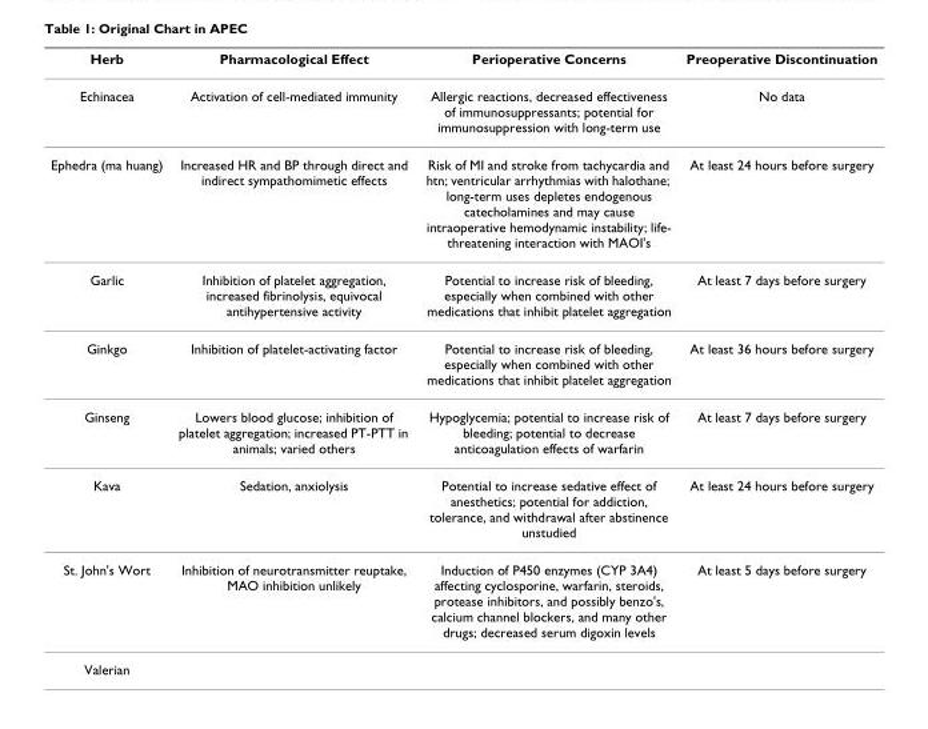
<table><thead><tr><td>Herb</td><td>Pharmacological Effect</td><td>Perioperative Concerns</td><td>Preoperative Discontinuation</td></tr></thead><tbody><tr><td>Echinacea</td><td>Activation of cell-mediated immunity</td><td>Allergic reactions, decreased effectiveness of immunosuppressants; potential for immunosuppression with long-term use</td><td>No data</td></tr><tr><td>Ephedra (ma huang)</td><td>Increased HR and BP through direct and indirect sympathomimetic effects</td><td>Risk of MI and stroke from tachycardia and htn; ventricular arrhythmias with halothane; long-term uses depletes endogenous catecholamines and may cause intraoperative hemodynamic instability; life- threatening interaction with MAOI&#x27;s</td><td>At least 24 hours before surgery</td></tr><tr><td>Garlic</td><td>Inhibition of platelet aggregation, increased fibrinolysis, equivocal antihypertensive activity</td><td>Potential to increase risk of bleeding, especially when combined with other medications that inhibit platelet aggregation</td><td>At least 7 days before surgery</td></tr><tr><td>Ginkgo</td><td>Inhibition of platelet-activating factor</td><td>Potential to increase risk of bleeding, especially when combined with other medications that inhibit platelet aggregation</td><td>At least 36 hours before surgery</td></tr><tr><td>Ginseng</td><td>Lowers blood glucose; inhibition of platelet aggregation; increased PT-PTT in animals; varied others</td><td>Hypoglycemia; potential to increase risk of bleeding; potential to decrease anticoagulation effects of warfarin</td><td>At least 7 days before surgery</td></tr><tr><td>Kava</td><td>Sedation, anxiolysis</td><td>Potential to increase sedative effect of anesthetics; potential for addiction, tolerance, and withdrawal after abstinence unstudied</td><td>At least 24 hours before surgery</td></tr><tr><td>St. John&#x27;s Wort</td><td>Inhibition of neurotransmitter reuptake, MAO inhibition unlikely</td><td>Induction of P450 enzymes (CYP 3A4) affecting cyclosporine, warfarin, steroids, protease inhibitors, and possibly benzo&#x27;s, calcium channel blockers, and many other drugs; decreased serum digoxin levels</td><td>At least 5 days before surgery</td></tr><tr><td>Valerian</td><td></td><td></td><td></td></tr></tbody></table>